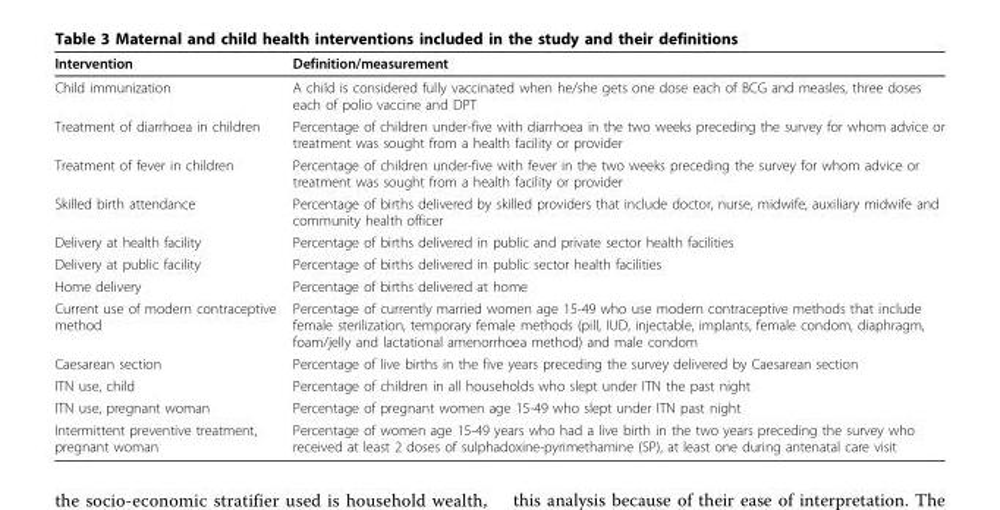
<table><thead><tr><td>Intervention</td><td>Definition/measurement</td></tr></thead><tbody><tr><td>Child immunization</td><td>A child is considered fully vaccinated when he/she gets one dose each of BCG and measles, three doses each of polio vaccine and DPT</td></tr><tr><td>Treatment of diarrhoea in children</td><td>Percentage of children under-five with diarrhoea in the two weeks preceding the survey for whom advice or treatment was sought from a health facility or provider</td></tr><tr><td>Treatment of fever in children</td><td>Percentage of children under-five with fever in the two weeks preceding the survey for whom advice or treatment was sought from a health facility or provider</td></tr><tr><td>Skilled birth attendance</td><td>Percentage of births delivered by skilled providers that include doctor, nurse, midwife, auxiliary midwife and community health officer</td></tr><tr><td>Delivery at health facility</td><td>Percentage of births delivered in public and private sector health facilities</td></tr><tr><td>Delivery at public facility</td><td>Percentage of births delivered in public sector health facilities</td></tr><tr><td>Home delivery</td><td>Percentage of births delivered at home</td></tr><tr><td>Current use of modern contraceptive method</td><td>Percentage of currently married women age 15-49 who use modern contraceptive methods that include female sterilization, temporary female methods (pill, IUD, injectable, implants, female condom, diaphragm, foam/jelly and lactational amenorrhoea method) and male condom</td></tr><tr><td>Caesarean section</td><td>Percentage of live births in the five years preceding the survey delivered by Caesarean section</td></tr><tr><td>ITN use, child</td><td>Percentage of children in all households who slept under ITN the past night</td></tr><tr><td>ITN use, pregnant woman</td><td>Percentage of pregnant women age 15-49 who slept under ITN past night</td></tr><tr><td>Intermittent preventive treatment, pregnant woman</td><td>Percentage of women age 15-49 years who had a live birth in the two years preceding the survey who received at least 2 doses of sulphadoxine-pyrimethamine (SP), at least one during antenatal care visit</td></tr></tbody></table>